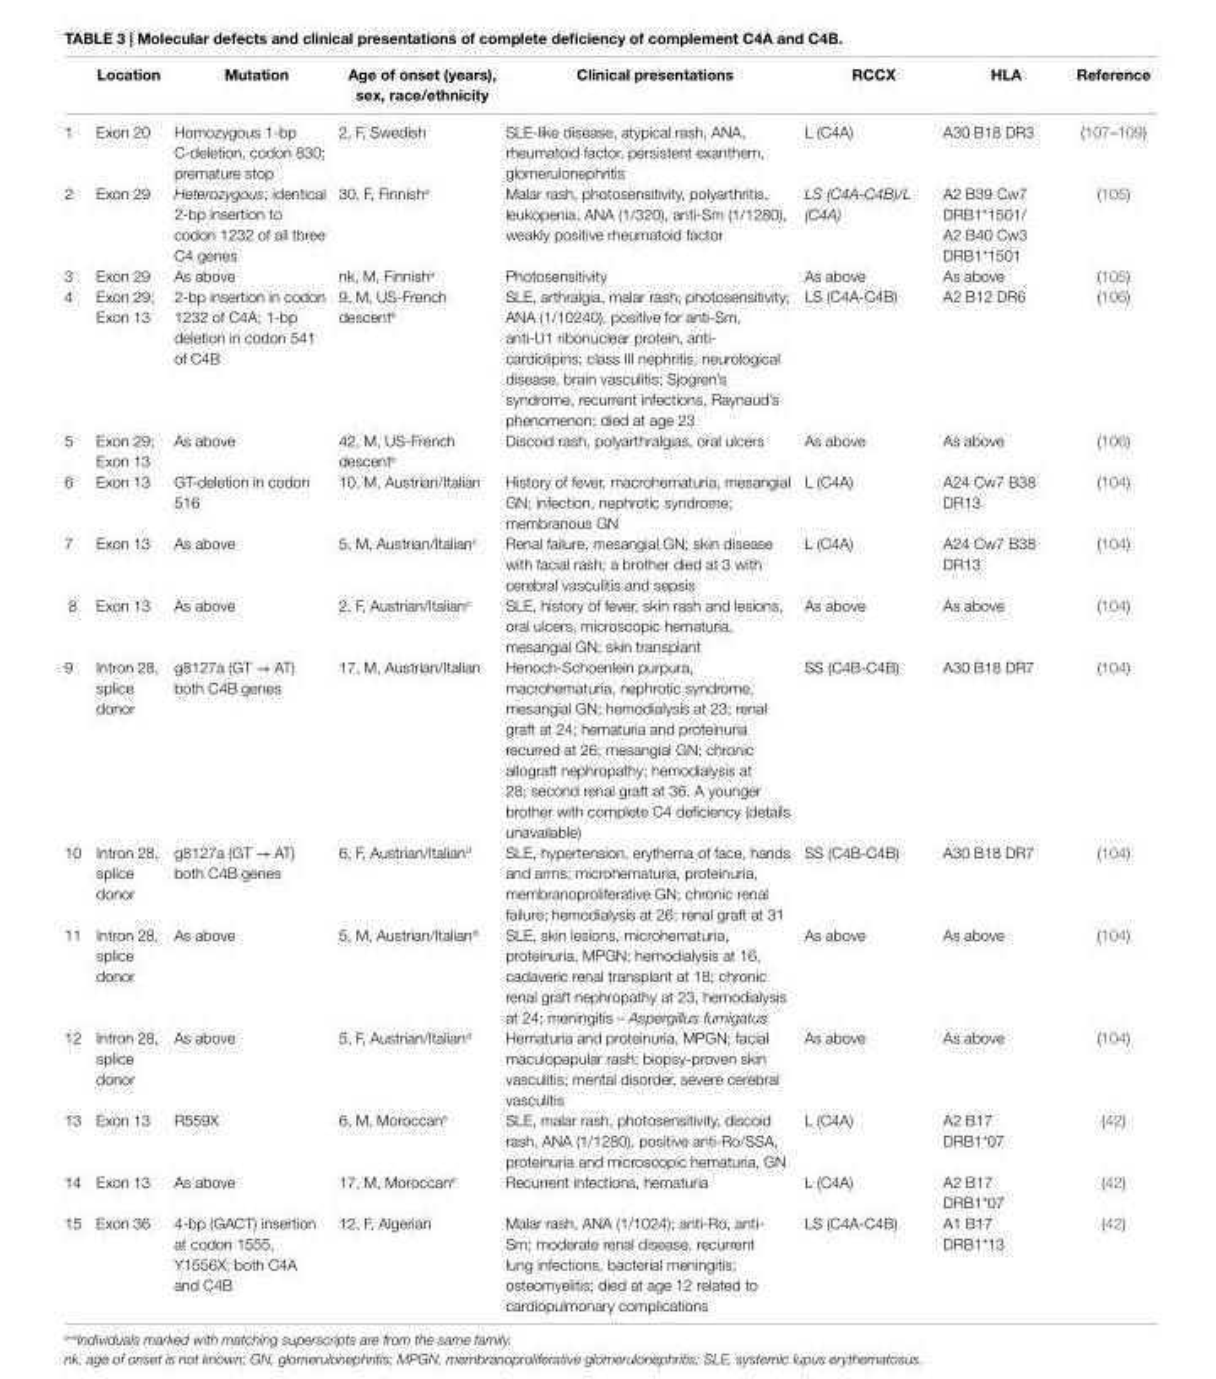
<table><thead><tr><td></td><td>Location</td><td>Mutation</td><td>Age of onset (years), sex, race/ethnicity</td><td>Clinical presentations</td><td>RCCX</td><td>HLA</td><td>Reference</td></tr></thead><tbody><tr><td>1</td><td>Exon 20</td><td>Homozygous 1-bp C-deletion, codon 830; premature stop</td><td>2, F, Swedish</td><td>SLE-like disease, atypical rash, ANA, rheumatoid factor, persistent exanthem, glomerulonephritis</td><td>L (C4A)</td><td>A30 B18 DR3</td><td>(107–109)</td></tr><tr><td>2</td><td>Exon 29</td><td>Heterozygous; identical 2-bp insertion to codon 1232 of all three C4 genes</td><td>30, F, Finnish<sup>a</sup></td><td>Malar rash, photosensitivity, polyarthritis, leukopenia, ANA (1/320), anti-Sm (1/1280), weakly positive rheumatoid factor</td><td>LS (C4A-C4B)/L (C4A)</td><td>A2 B39 Cw7 DRB1*1501/ A2 B40 Cw3 DRB1*1501</td><td>(105)</td></tr><tr><td>3</td><td>Exon 29</td><td>As above</td><td>nk, M, Finnish<sup>a</sup></td><td>Photosensitivity</td><td>As above</td><td>As above</td><td>(105)</td></tr><tr><td>4</td><td>Exon 29; Exon 13</td><td>2-bp insertion in codon 1232 of C4A; 1-bp deletion in codon 541 of C4B</td><td>9, M, US-French descent<sup>b</sup></td><td>SLE, arthralgia, malar rash; photosensitivity; ANA (1/10240), positive for anti-Sm, anti-U1 ribonuclear protein, anti- cardiolipins; class III nephritis, neurological disease, brain vasculitis; Sjogren’s syndrome, recurrent infections, Raynaud’s phenomenon; died at age 23</td><td>LS (C4A-C4B)</td><td>A2 B12 DR6</td><td>(106)</td></tr><tr><td>5</td><td>Exon 29; Exon 13</td><td>As above</td><td>42, M, US-French descent<sup>b</sup></td><td>Discoid rash, polyarthralgias, oral ulcers</td><td>As above</td><td>As above</td><td>(106)</td></tr><tr><td>6</td><td>Exon 13</td><td>GT-deletion in codon 516</td><td>10, M, Austrian/Italian</td><td>History of fever, macrohematuria, mesangial GN; infection, nephrotic syndrome; membranous GN</td><td>L (C4A)</td><td>A24 Cw7 B38 DR13</td><td>(104)</td></tr><tr><td>7</td><td>Exon 13</td><td>As above</td><td>5, M, Austrian/Italian<sup>c</sup></td><td>Renal failure, mesangial GN; skin disease with facial rash; a brother died at 3 with cerebral vasculitis and sepsis</td><td>L (C4A)</td><td>A24 Cw7 B38 DR13</td><td>(104)</td></tr><tr><td>8</td><td>Exon 13</td><td>As above</td><td>2, F, Austrian/Italian<sup>c</sup></td><td>SLE, history of fever, skin rash and lesions, oral ulcers, microscopic hematuria, mesangial GN; skin transplant</td><td>As above</td><td>As above</td><td>(104)</td></tr><tr><td>9</td><td>Intron 28, splice donor</td><td>g8127a (GT → AT) both C4B genes</td><td>17, M, Austrian/Italian</td><td>Henoch-Schoenlein purpura, macrohematuria, nephrotic syndrome, mesangial GN; hemodialysis at 23; renal graft at 24; hematuria and proteinuria recurred at 26; mesangial GN; chronic allograft nephropathy; hemodialysis at 28; second renal graft at 36. A younger brother with complete C4 deficiency (details unavailable)</td><td>SS (C4B-C4B)</td><td>A30 B18 DR7</td><td>(104)</td></tr><tr><td>10</td><td>Intron 28, splice donor</td><td>g8127a (GT → AT) both C4B genes</td><td>6, F, Austrian/Italian<sup>d</sup></td><td>SLE, hypertension, erythema of face, hands and arms; microhematuria, proteinuria, membranoproliferative GN; chronic renal failure; hemodialysis at 26; renal graft at 31</td><td>SS (C4B-C4B)</td><td>A30 B18 DR7</td><td>(104)</td></tr><tr><td>11</td><td>Intron 28, splice donor</td><td>As above</td><td>5, M, Austrian/Italian<sup>d</sup></td><td>SLE, skin lesions, microhematuria, proteinuria, MPGN; hemodialysis at 16, cadaveric renal transplant at 18; chronic renal graft nephropathy at 23, hemodialysis at 24; meningitis – Aspergillus fumigatus</td><td>As above</td><td>As above</td><td>(104)</td></tr><tr><td>12</td><td>Intron 28, splice donor</td><td>As above</td><td>5, F, Austrian/Italian<sup>d</sup></td><td>Hematuria and proteinuria, MPGN; facial maculopapular rash; biopsy-proven skin vasculitis; mental disorder, severe cerebral vasculitis</td><td>As above</td><td>As above</td><td>(104)</td></tr><tr><td>13</td><td>Exon 13</td><td>R559X</td><td>6, M, Moroccan<sup>e</sup></td><td>SLE, malar rash, photosensitivity, discoid rash, ANA (1/1280), positive anti-Ro/SSA, proteinuria and microscopic hematuria, GN</td><td>L (C4A)</td><td>A2 B17 DRB1*07</td><td>(42)</td></tr><tr><td>14</td><td>Exon 13</td><td>As above</td><td>17, M, Moroccan<sup>e</sup></td><td>Recurrent infections, hematuria</td><td>L (C4A)</td><td>A2 B17 DRB1*07</td><td>(42)</td></tr><tr><td>15</td><td>Exon 36</td><td>4-bp (GACT) insertion at codon 1555, Y1556X; both C4A and C4B</td><td>12, F, Algerian</td><td>Malar rash, ANA (1/1024); anti-Ro, anti- Sm; moderate renal disease, recurrent lung infections, bacterial meningitis; osteomyelitis; died at age 12 related to cardiopulmonary complications</td><td>LS (C4A-C4B)</td><td>A1 B17 DRB1*13</td><td>(42)</td></tr></tbody></table>